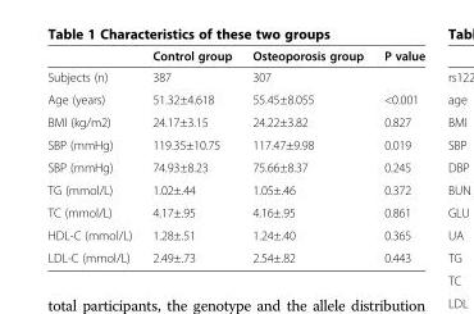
<table><thead><tr><td></td><td>Control group</td><td>Osteoporosis group</td><td>P value</td></tr></thead><tbody><tr><td>Subjects (n)</td><td>387</td><td>307</td><td></td></tr><tr><td>Age (years)</td><td>51.32±4.618</td><td>55.45±8.055</td><td>&lt;0.001</td></tr><tr><td>BMI (kg/m2)</td><td>24.17±3.15</td><td>24.22±3.82</td><td>0.827</td></tr><tr><td>SBP (mmHg)</td><td>119.35±10.75</td><td>117.47±9.98</td><td>0.019</td></tr><tr><td>SBP (mmHg)</td><td>74.93±8.23</td><td>75.66±8.37</td><td>0.245</td></tr><tr><td>TG (mmol/L)</td><td>1.02±.44</td><td>1.05±.46</td><td>0.372</td></tr><tr><td>TC (mmol/L)</td><td>4.17±.95</td><td>4.16±.95</td><td>0.861</td></tr><tr><td>HDL-C (mmol/L)</td><td>1.28±.51</td><td>1.24±.40</td><td>0.365</td></tr><tr><td>LDL-C (mmol/L)</td><td>2.49±.73</td><td>2.54±.82</td><td>0.443</td></tr></tbody></table>